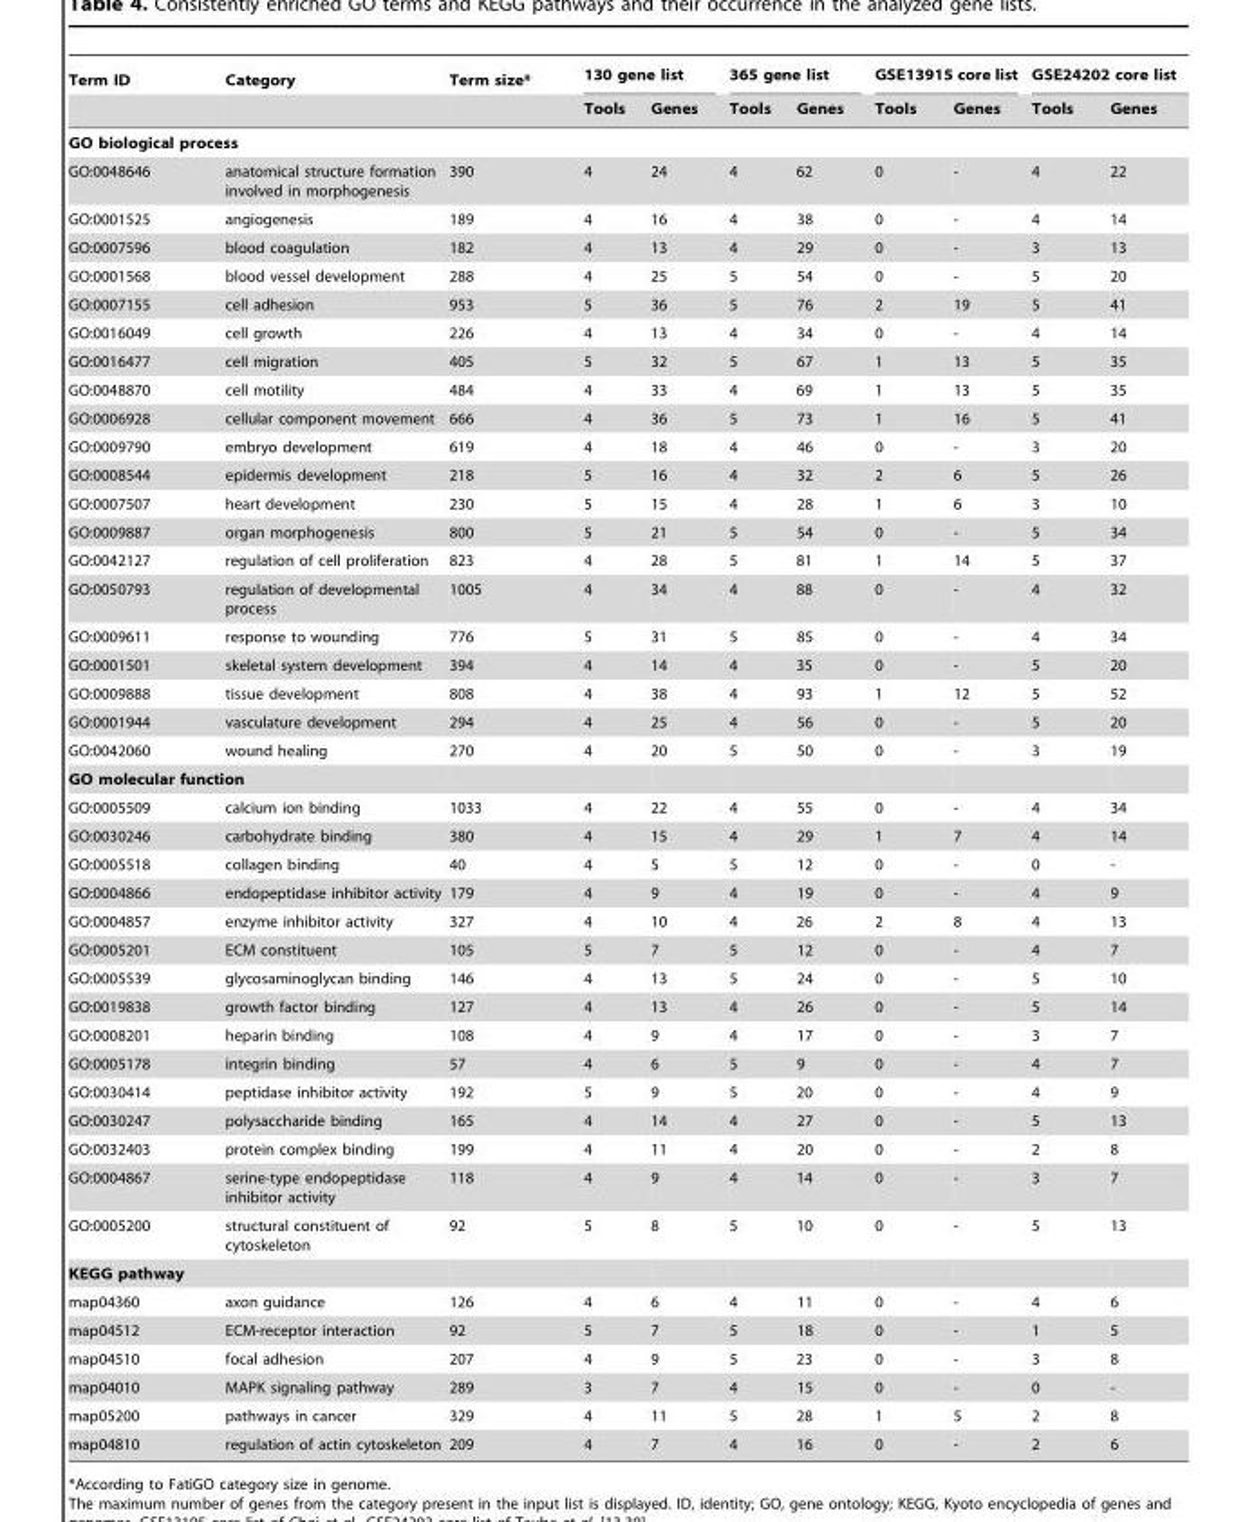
<table><thead><tr><td rowspan="2">Term ID</td><td rowspan="2">Category</td><td rowspan="2">Term size*</td><td colspan="2">130 gene list</td><td colspan="2">365 gene list</td><td colspan="2">GSE13915 core list</td><td colspan="2">GSE24202 core list</td></tr><tr><td>Tools</td><td>Genes</td><td>Tools</td><td>Genes</td><td>Tools</td><td>Genes</td><td>Tools</td><td>Genes</td></tr></thead><tbody><tr><td colspan="11">GO biological process</td></tr><tr><td>GO:0048646</td><td>anatomical structure formation involved in morphogenesis</td><td>390</td><td>4</td><td>24</td><td>4</td><td>62</td><td>0</td><td>-</td><td>4</td><td>22</td></tr><tr><td>GO:0001525</td><td>angiogenesis</td><td>189</td><td>4</td><td>16</td><td>4</td><td>38</td><td>0</td><td>-</td><td>4</td><td>14</td></tr><tr><td>GO:0007596</td><td>blood coagulation</td><td>182</td><td>4</td><td>13</td><td>4</td><td>29</td><td>0</td><td>-</td><td>3</td><td>13</td></tr><tr><td>GO:0001568</td><td>blood vessel development</td><td>288</td><td>4</td><td>25</td><td>5</td><td>54</td><td>0</td><td>-</td><td>5</td><td>20</td></tr><tr><td>GO:0007155</td><td>cell adhesion</td><td>953</td><td>5</td><td>36</td><td>5</td><td>76</td><td>2</td><td>19</td><td>5</td><td>41</td></tr><tr><td>GO:0016049</td><td>cell growth</td><td>226</td><td>4</td><td>13</td><td>4</td><td>34</td><td>0</td><td>-</td><td>4</td><td>14</td></tr><tr><td>GO:0016477</td><td>cell migration</td><td>405</td><td>5</td><td>32</td><td>5</td><td>67</td><td>1</td><td>13</td><td>5</td><td>35</td></tr><tr><td>GO:0048870</td><td>cell motility</td><td>484</td><td>4</td><td>33</td><td>4</td><td>69</td><td>1</td><td>13</td><td>5</td><td>35</td></tr><tr><td>GO:0006928</td><td>cellular component movement</td><td>666</td><td>4</td><td>36</td><td>5</td><td>73</td><td>1</td><td>16</td><td>5</td><td>41</td></tr><tr><td>GO:0009790</td><td>embryo development</td><td>619</td><td>4</td><td>18</td><td>4</td><td>46</td><td>0</td><td>-</td><td>3</td><td>20</td></tr><tr><td>GO:0008544</td><td>epidermis development</td><td>218</td><td>5</td><td>16</td><td>4</td><td>32</td><td>2</td><td>6</td><td>5</td><td>26</td></tr><tr><td>GO:0007507</td><td>heart development</td><td>230</td><td>5</td><td>15</td><td>4</td><td>28</td><td>1</td><td>6</td><td>3</td><td>10</td></tr><tr><td>GO:0009887</td><td>organ morphogenesis</td><td>800</td><td>5</td><td>21</td><td>5</td><td>54</td><td>0</td><td>-</td><td>5</td><td>34</td></tr><tr><td>GO:0042127</td><td>regulation of cell proliferation</td><td>823</td><td>4</td><td>28</td><td>5</td><td>81</td><td>1</td><td>14</td><td>5</td><td>37</td></tr><tr><td>GO:0050793</td><td>regulation of developmental process</td><td>1005</td><td>4</td><td>34</td><td>4</td><td>88</td><td>0</td><td>-</td><td>4</td><td>32</td></tr><tr><td>GO:0009611</td><td>response to wounding</td><td>776</td><td>5</td><td>31</td><td>5</td><td>85</td><td>0</td><td>-</td><td>4</td><td>34</td></tr><tr><td>GO:0001501</td><td>skeletal system development</td><td>394</td><td>4</td><td>14</td><td>4</td><td>35</td><td>0</td><td>-</td><td>5</td><td>20</td></tr><tr><td>GO:0009888</td><td>tissue development</td><td>808</td><td>4</td><td>38</td><td>4</td><td>93</td><td>1</td><td>12</td><td>5</td><td>52</td></tr><tr><td>GO:0001944</td><td>vasculature development</td><td>294</td><td>4</td><td>25</td><td>4</td><td>56</td><td>0</td><td>-</td><td>5</td><td>20</td></tr><tr><td>GO:0042060</td><td>wound healing</td><td>270</td><td>4</td><td>20</td><td>5</td><td>50</td><td>0</td><td>-</td><td>3</td><td>19</td></tr><tr><td colspan="11">GO molecular function</td></tr><tr><td>GO:0005509</td><td>calcium ion binding</td><td>1033</td><td>4</td><td>22</td><td>4</td><td>55</td><td>0</td><td>-</td><td>4</td><td>34</td></tr><tr><td>GO:0030246</td><td>carbohydrate binding</td><td>380</td><td>4</td><td>15</td><td>4</td><td>29</td><td>1</td><td>7</td><td>4</td><td>14</td></tr><tr><td>GO:0005518</td><td>collagen binding</td><td>40</td><td>4</td><td>5</td><td>5</td><td>12</td><td>0</td><td>-</td><td>0</td><td>-</td></tr><tr><td>GO:0004866</td><td>endopeptidase inhibitor activity</td><td>179</td><td>4</td><td>9</td><td>4</td><td>19</td><td>0</td><td>-</td><td>4</td><td>9</td></tr><tr><td>GO:0004857</td><td>enzyme inhibitor activity</td><td>327</td><td>4</td><td>10</td><td>4</td><td>26</td><td>2</td><td>8</td><td>4</td><td>13</td></tr><tr><td>GO:0005201</td><td>ECM constituent</td><td>105</td><td>5</td><td>7</td><td>5</td><td>12</td><td>0</td><td>-</td><td>4</td><td>7</td></tr><tr><td>GO:0005539</td><td>glycosaminoglycan binding</td><td>146</td><td>4</td><td>13</td><td>5</td><td>24</td><td>0</td><td>-</td><td>5</td><td>10</td></tr><tr><td>GO:0019838</td><td>growth factor binding</td><td>127</td><td>4</td><td>13</td><td>4</td><td>26</td><td>0</td><td>-</td><td>5</td><td>14</td></tr><tr><td>GO:0008201</td><td>heparin binding</td><td>108</td><td>4</td><td>9</td><td>4</td><td>17</td><td>0</td><td>-</td><td>3</td><td>7</td></tr><tr><td>GO:0005178</td><td>integrin binding</td><td>57</td><td>4</td><td>6</td><td>5</td><td>9</td><td>0</td><td>-</td><td>4</td><td>7</td></tr><tr><td>GO:0030414</td><td>peptidase inhibitor activity</td><td>192</td><td>5</td><td>9</td><td>5</td><td>20</td><td>0</td><td>-</td><td>4</td><td>9</td></tr><tr><td>GO:0030247</td><td>polysaccharide binding</td><td>165</td><td>4</td><td>14</td><td>4</td><td>27</td><td>0</td><td>-</td><td>5</td><td>13</td></tr><tr><td>GO:0032403</td><td>protein complex binding</td><td>199</td><td>4</td><td>11</td><td>4</td><td>20</td><td>0</td><td>-</td><td>2</td><td>8</td></tr><tr><td>GO:0004867</td><td>serine-type endopeptidase inhibitor activity</td><td>118</td><td>4</td><td>9</td><td>4</td><td>14</td><td>0</td><td>-</td><td>3</td><td>7</td></tr><tr><td>GO:0005200</td><td>structural constituent of cytoskeleton</td><td>92</td><td>5</td><td>8</td><td>5</td><td>10</td><td>0</td><td>-</td><td>5</td><td>13</td></tr><tr><td colspan="11">KEGG pathway</td></tr><tr><td>map04360</td><td>axon guidance</td><td>126</td><td>4</td><td>6</td><td>4</td><td>11</td><td>0</td><td>-</td><td>4</td><td>6</td></tr><tr><td>map04512</td><td>ECM-receptor interaction</td><td>92</td><td>5</td><td>7</td><td>5</td><td>18</td><td>0</td><td>-</td><td>1</td><td>5</td></tr><tr><td>map04510</td><td>focal adhesion</td><td>207</td><td>4</td><td>9</td><td>5</td><td>23</td><td>0</td><td>-</td><td>3</td><td>8</td></tr><tr><td>map04010</td><td>MAPK signaling pathway</td><td>289</td><td>3</td><td>7</td><td>4</td><td>15</td><td>0</td><td>-</td><td>0</td><td>-</td></tr><tr><td>map05200</td><td>pathways in cancer</td><td>329</td><td>4</td><td>11</td><td>5</td><td>28</td><td>1</td><td>5</td><td>2</td><td>8</td></tr><tr><td>map04810</td><td>regulation of actin cytoskeleton</td><td>209</td><td>4</td><td>7</td><td>4</td><td>16</td><td>0</td><td>-</td><td>2</td><td>6</td></tr></tbody></table>